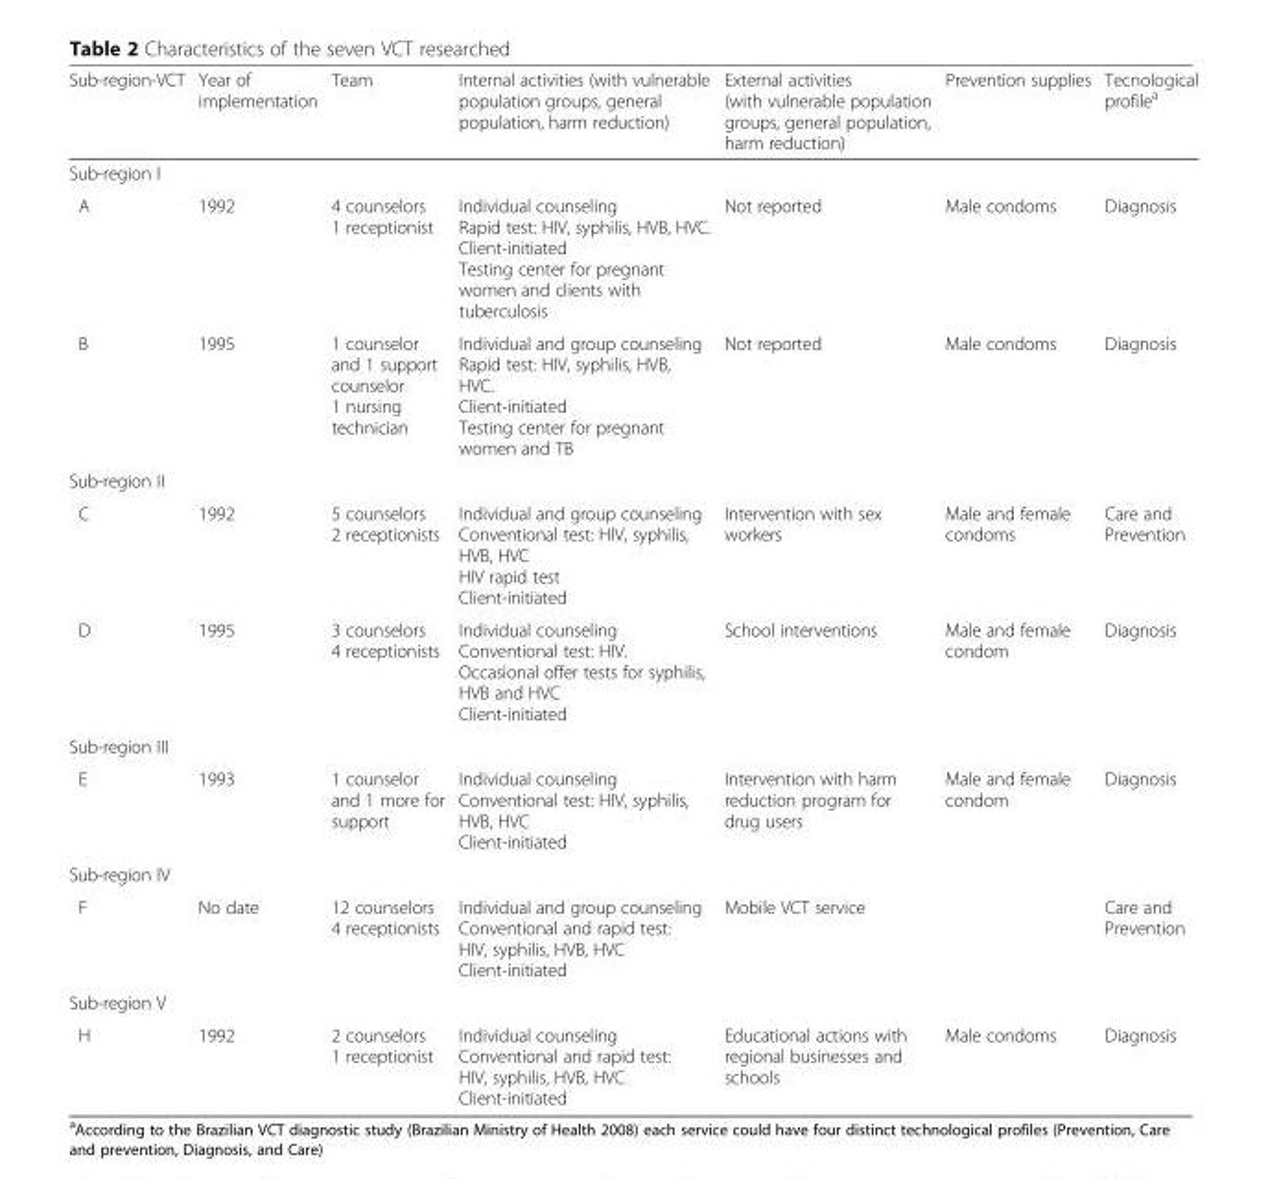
<table><thead><tr><td>Sub-region-VCT</td><td>Year of implementation</td><td>Team</td><td>Internal activities (with vulnerable population groups, general population, harm reduction)</td><td>External activities (with vulnerable population groups, general population, harm reduction)</td><td>Prevention supplies</td><td>Tecnological profile<sup>a</sup></td></tr></thead><tbody><tr><td colspan="7">Sub-region I</td></tr><tr><td>A</td><td>1992</td><td>4 counselors 1 receptionist</td><td>Individual counseling Rapid test: HIV, syphilis, HVB, HVC. Client-initiated Testing center for pregnant women and clients with tuberculosis</td><td>Not reported</td><td>Male condoms</td><td>Diagnosis</td></tr><tr><td>B</td><td>1995</td><td>1 counselor and 1 support counselor 1 nursing technician</td><td>Individual and group counseling Rapid test: HIV, syphilis, HVB, HVC. Client-initiated Testing center for pregnant women and TB</td><td>Not reported</td><td>Male condoms</td><td>Diagnosis</td></tr><tr><td colspan="7">Sub-region II</td></tr><tr><td>C</td><td>1992</td><td>5 counselors 2 receptionists</td><td>Individual and group counseling Conventional test: HIV, syphilis, HVB, HVC HIV rapid test Client-initiated</td><td>Intervention with sex workers</td><td>Male and female condoms</td><td>Care and Prevention</td></tr><tr><td>D</td><td>1995</td><td>3 counselors 4 receptionists</td><td>Individual counseling Conventional test: HIV. Occasional offer tests for syphilis, HVB and HVC Client-initiated</td><td>School interventions</td><td>Male and female condom</td><td>Diagnosis</td></tr><tr><td colspan="7">Sub-region III</td></tr><tr><td>E</td><td>1993</td><td>1 counselor and 1 more for support</td><td>Individual counseling Conventional test: HIV, syphilis, HVB, HVC Client-initiated</td><td>Intervention with harm reduction program for drug users</td><td>Male and female condom</td><td>Diagnosis</td></tr><tr><td colspan="7">Sub-region IV</td></tr><tr><td>F</td><td>No date</td><td>12 counselors 4 receptionists</td><td>Individual and group counseling Conventional and rapid test: HIV, syphilis, HVB, HVC Client-initiated</td><td>Mobile VCT service</td><td></td><td>Care and Prevention</td></tr><tr><td colspan="7">Sub-region V</td></tr><tr><td>H</td><td>1992</td><td>2 counselors 1 receptionist</td><td>Individual counseling Conventional and rapid test: HIV, syphilis, HVB, HVC Client-initiated</td><td>Educational actions with regional businesses and schools</td><td>Male condoms</td><td>Diagnosis</td></tr></tbody></table>